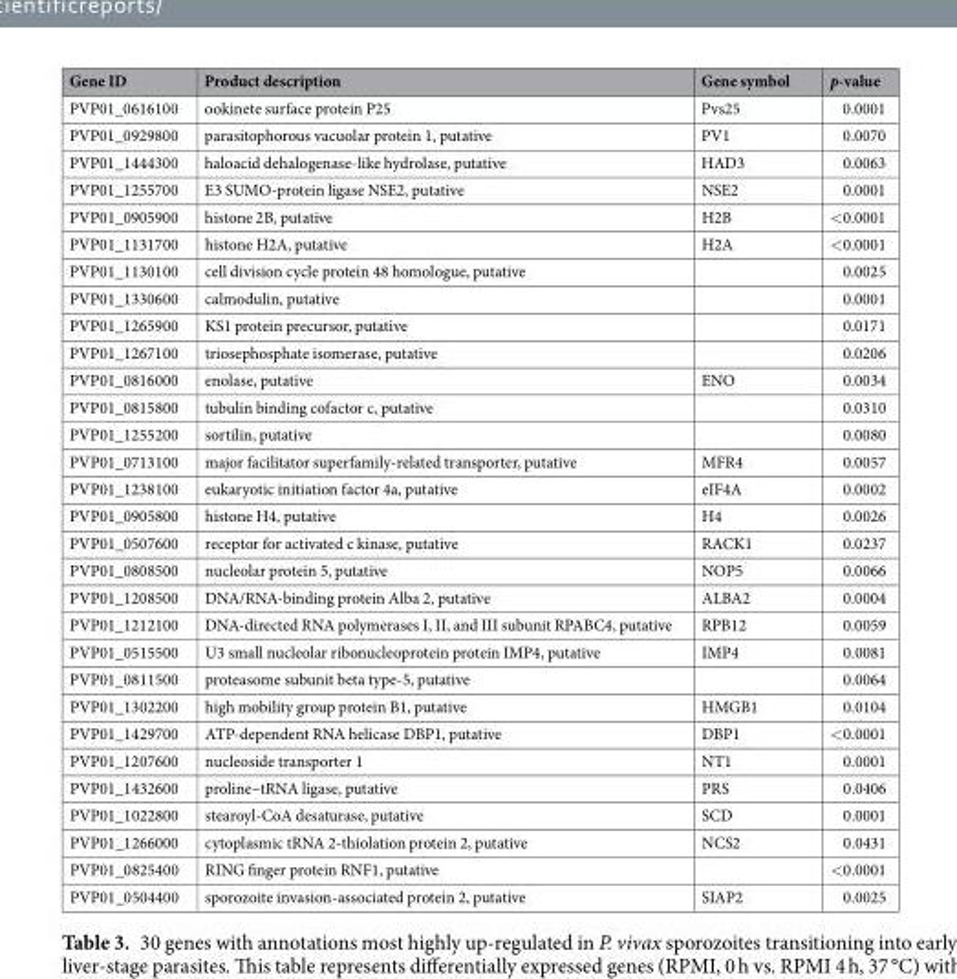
<table><thead><tr><td>Gene ID</td><td>Product description</td><td>Gene symbol</td><td>p-value</td></tr></thead><tbody><tr><td>PVP01_0616100</td><td>ookinete surface protein P25</td><td>Pvs25</td><td>0.0001</td></tr><tr><td>PVP01_0929800</td><td>parasitophorous vacuolar protein 1, putative</td><td>PV1</td><td>0.0070</td></tr><tr><td>PVP01_1444300</td><td>haloacid dehalogenase-like hydrolase, putative</td><td>HAD3</td><td>0.0063</td></tr><tr><td>PVP01_1255700</td><td>E3 SUMO-protein ligase NSE2, putative</td><td>NSE2</td><td>0.0001</td></tr><tr><td>PVP01_0905900</td><td>histone 2B, putative</td><td>H2B</td><td>&lt;0.0001</td></tr><tr><td>PVP01_1131700</td><td>histone H2A, putative</td><td>H2A</td><td>&lt;0.0001</td></tr><tr><td>PVP01_1130100</td><td>cell division cycle protein 48 homologue, putative</td><td></td><td>0.0025</td></tr><tr><td>PVP01_1330600</td><td>calmodulin, putative</td><td></td><td>0.0001</td></tr><tr><td>PVP01_1265900</td><td>KS1 protein precursor, putative</td><td></td><td>0.0171</td></tr><tr><td>PVP01_1267100</td><td>triosephosphate isomerase, putative</td><td></td><td>0.0206</td></tr><tr><td>PVP01_0816000</td><td>enolase, putative</td><td>ENO</td><td>0.0034</td></tr><tr><td>PVP01_0815800</td><td>tubulin binding cofactor c, putative</td><td></td><td>0.0310</td></tr><tr><td>PVP01_1255200</td><td>sortilin, putative</td><td></td><td>0.0080</td></tr><tr><td>PVP01_0713100</td><td>major facilitator superfamily-related transporter, putative</td><td>MFR4</td><td>0.0057</td></tr><tr><td>PVP01_1238100</td><td>eukaryotic initiation factor 4a, putative</td><td>eIF4A</td><td>0.0002</td></tr><tr><td>PVP01_0905800</td><td>histone H4, putative</td><td>H4</td><td>0.0026</td></tr><tr><td>PVP01_0507600</td><td>receptor for activated c kinase, putative</td><td>RACK1</td><td>0.0237</td></tr><tr><td>PVP01_0808500</td><td>nucleolar protein 5, putative</td><td>NOP5</td><td>0.0066</td></tr><tr><td>PVP01_1208500</td><td>DNA/RNA-binding protein Alba 2, putative</td><td>ALBA2</td><td>0.0004</td></tr><tr><td>PVP01_1212100</td><td>DNA-directed RNA polymerases I, II, and III subunit RPABC4, putative</td><td>RPB12</td><td>0.0059</td></tr><tr><td>PVP01_0515500</td><td>U3 small nucleolar ribonucleoprotein protein IMP4, putative</td><td>IMP4</td><td>0.0081</td></tr><tr><td>PVP01_0811500</td><td>proteasome subunit beta type-5, putative</td><td></td><td>0.0064</td></tr><tr><td>PVP01_1302200</td><td>high mobility group protein B1, putative</td><td>HMGB1</td><td>0.0104</td></tr><tr><td>PVP01_1429700</td><td>ATP-dependent RNA helicase DBP1, putative</td><td>DBP1</td><td>&lt;0.0001</td></tr><tr><td>PVP01_1207600</td><td>nucleoside transporter 1</td><td>NT1</td><td>0.0001</td></tr><tr><td>PVP01_1432600</td><td>proline–tRNA ligase, putative</td><td>PRS</td><td>0.0406</td></tr><tr><td>PVP01_1022800</td><td>stearoyl-CoA desaturase, putative</td><td>SCD</td><td>0.0001</td></tr><tr><td>PVP01_1266000</td><td>cytoplasmic tRNA 2-thiolation protein 2, putative</td><td>NCS2</td><td>0.0431</td></tr><tr><td>PVP01_0825400</td><td>RING finger protein RNF1, putative</td><td></td><td>&lt;0.0001</td></tr><tr><td>PVP01_0504400</td><td>sporozoite invasion-associated protein 2, putative</td><td>SIAP2</td><td>0.0025</td></tr></tbody></table>